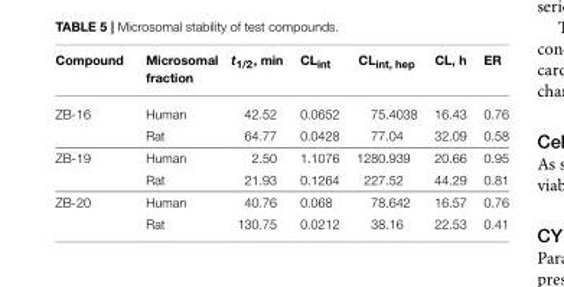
<table><thead><tr><td>Compound</td><td>Microsomal fraction</td><td>t<sub>1/2</sub>, min</td><td>CL<sub>int</sub></td><td>CL<sub>int, hep</sub></td><td>CL, h</td><td>ER</td></tr></thead><tbody><tr><td rowspan="2">ZB-16</td><td>Human</td><td>42.52</td><td>0.0652</td><td>75.4038</td><td>16.43</td><td>0.76</td></tr><tr><td>Rat</td><td>64.77</td><td>0.0428</td><td>77.04</td><td>32.09</td><td>0.58</td></tr><tr><td rowspan="2">ZB-19</td><td>Human</td><td>2.50</td><td>1.1076</td><td>1280.939</td><td>20.66</td><td>0.95</td></tr><tr><td>Rat</td><td>21.93</td><td>0.1264</td><td>227.52</td><td>44.29</td><td>0.81</td></tr><tr><td rowspan="2">ZB-20</td><td>Human</td><td>40.76</td><td>0.068</td><td>78.642</td><td>16.57</td><td>0.76</td></tr><tr><td>Rat</td><td>130.75</td><td>0.0212</td><td>38.16</td><td>22.53</td><td>0.41</td></tr></tbody></table>